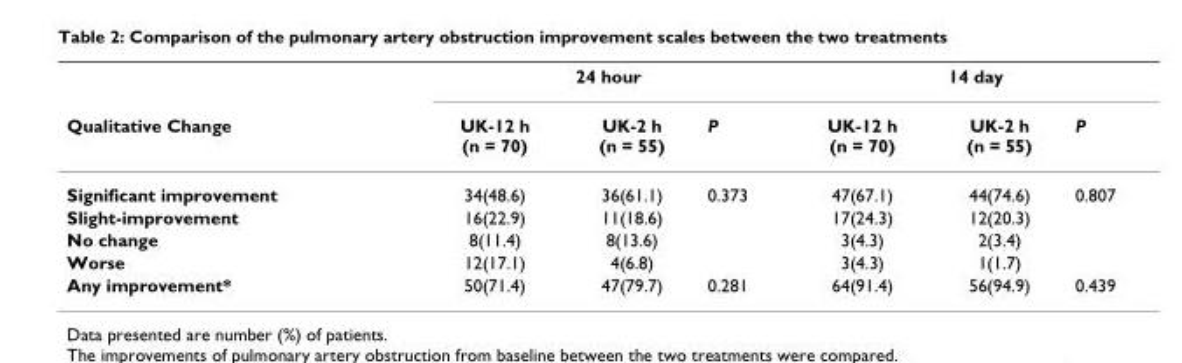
<table><thead><tr><td rowspan="2">Qualitative Change</td><td colspan="3">24 hour</td><td colspan="3">14 day</td></tr><tr><td>UK-12 h (n = 70)</td><td>UK-2 h (n = 55)</td><td>P</td><td>UK-12 h (n = 70)</td><td>UK-2 h (n = 55)</td><td>P</td></tr></thead><tbody><tr><td>Significant improvement</td><td>34(48.6)</td><td>36(61.1)</td><td>0.373</td><td>47(67.1)</td><td>44(74.6)</td><td>0.807</td></tr><tr><td>Slight-improvement</td><td>16(22.9)</td><td>11(18.6)</td><td></td><td>17(24.3)</td><td>12(20.3)</td><td></td></tr><tr><td>No change</td><td>8(11.4)</td><td>8(13.6)</td><td></td><td>3(4.3)</td><td>2(3.4)</td><td></td></tr><tr><td>Worse</td><td>12(17.1)</td><td>4(6.8)</td><td></td><td>3(4.3)</td><td>1(1.7)</td><td></td></tr><tr><td>Any improvement*</td><td>50(71.4)</td><td>47(79.7)</td><td>0.281</td><td>64(91.4)</td><td>56(94.9)</td><td>0.439</td></tr></tbody></table>